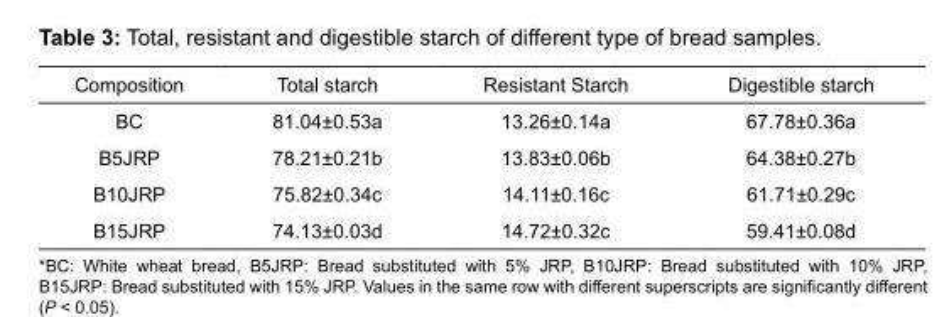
<table><thead><tr><td>Composition</td><td>Total starch</td><td>Resistant Starch</td><td>Digestible starch</td></tr></thead><tbody><tr><td>BC</td><td>81.04±0.53a</td><td>13.26±0.14a</td><td>67.78±0.36a</td></tr><tr><td>B5JRP</td><td>78.21±0.21b</td><td>13.83±0.06b</td><td>64.38±0.27b</td></tr><tr><td>B10JRP</td><td>75.82±0.34c</td><td>14.11±0.16c</td><td>61.71±0.29c</td></tr><tr><td>B15JRP</td><td>74.13±0.03d</td><td>14.72±0.32c</td><td>59.41±0.08d</td></tr></tbody></table>